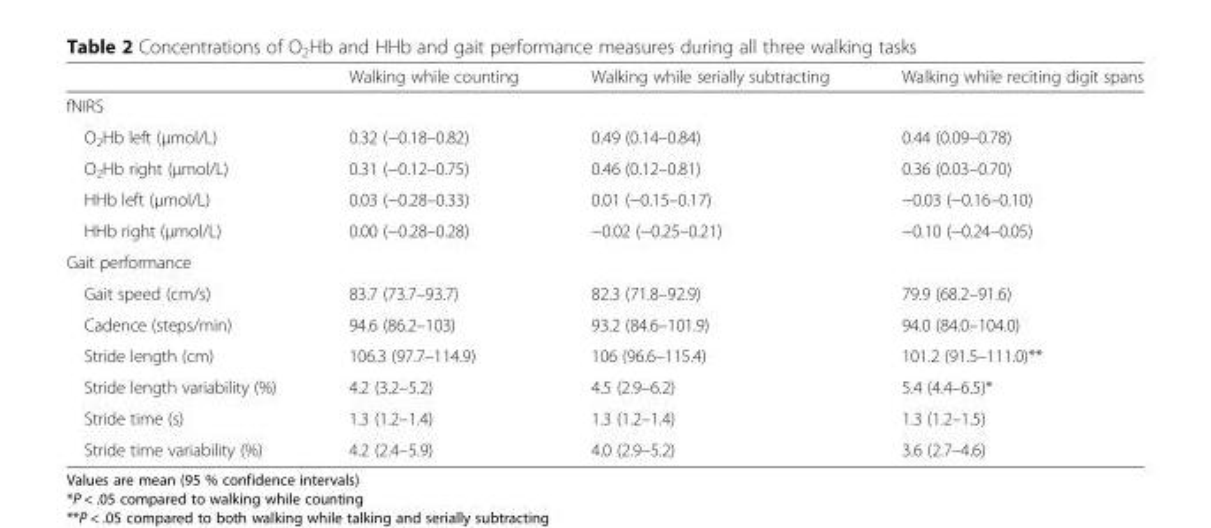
<table><thead><tr><td></td><td>Walking while counting</td><td>Walking while serially subtracting</td><td>Walking while reciting digit spans</td></tr></thead><tbody><tr><td colspan="4">fNIRS</td></tr><tr><td>O<sub>2</sub>Hb left (μmol/L)</td><td>0.32 (−0.18–0.82)</td><td>0.49 (0.14–0.84)</td><td>0.44 (0.09–0.78)</td></tr><tr><td>O<sub>2</sub>Hb right (μmol/L)</td><td>0.31 (−0.12–0.75)</td><td>0.46 (0.12–0.81)</td><td>0.36 (0.03–0.70)</td></tr><tr><td>HHb left (μmol/L)</td><td>0.03 (−0.28–0.33)</td><td>0.01 (−0.15–0.17)</td><td>−0.03 (−0.16–0.10)</td></tr><tr><td>HHb right (μmol/L)</td><td>0.00 (−0.28–0.28)</td><td>−0.02 (−0.25–0.21)</td><td>−0.10 (−0.24–0.05)</td></tr><tr><td colspan="4">Gait performance</td></tr><tr><td>Gait speed (cm/s)</td><td>83.7 (73.7–93.7)</td><td>82.3 (71.8–92.9)</td><td>79.9 (68.2–91.6)</td></tr><tr><td>Cadence (steps/min)</td><td>94.6 (86.2–103)</td><td>93.2 (84.6–101.9)</td><td>94.0 (84.0–104.0)</td></tr><tr><td>Stride length (cm)</td><td>106.3 (97.7–114.9)</td><td>106 (96.6–115.4)</td><td>101.2 (91.5–111.0)**</td></tr><tr><td>Stride length variability (%)</td><td>4.2 (3.2–5.2)</td><td>4.5 (2.9–6.2)</td><td>5.4 (4.4–6.5)*</td></tr><tr><td>Stride time (s)</td><td>1.3 (1.2–1.4)</td><td>1.3 (1.2–1.4)</td><td>1.3 (1.2–1.5)</td></tr><tr><td>Stride time variability (%)</td><td>4.2 (2.4–5.9)</td><td>4.0 (2.9–5.2)</td><td>3.6 (2.7–4.6)</td></tr></tbody></table>